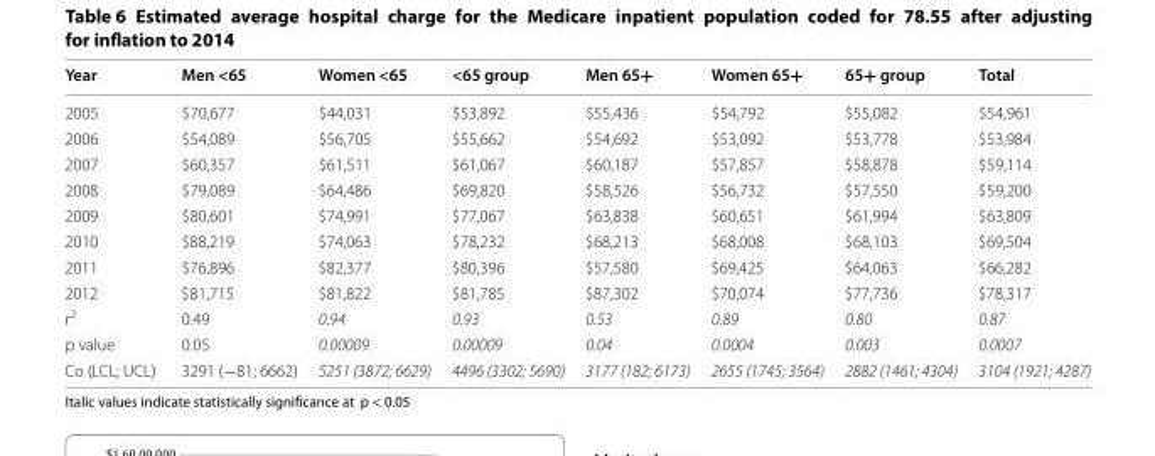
<table><thead><tr><td>Year</td><td>Men &lt;65</td><td>Women &lt;65</td><td>&lt;65 group</td><td>Men 65+</td><td>Women 65+</td><td>65+ group</td><td>Total</td></tr></thead><tbody><tr><td>2005</td><td>$70,677</td><td>$44,031</td><td>$53,892</td><td>$55,436</td><td>$54,792</td><td>$55,082</td><td>$54,961</td></tr><tr><td>2006</td><td>$54,089</td><td>$56,705</td><td>$55,662</td><td>$54,692</td><td>$53,092</td><td>$53,778</td><td>$53,984</td></tr><tr><td>2007</td><td>$60,357</td><td>$61,511</td><td>$61,067</td><td>$60,187</td><td>$57,857</td><td>$58,878</td><td>$59,114</td></tr><tr><td>2008</td><td>$79,089</td><td>$64,486</td><td>$69,820</td><td>$58,526</td><td>$56,732</td><td>$57,550</td><td>$59,200</td></tr><tr><td>2009</td><td>$80,601</td><td>$74,991</td><td>$77,067</td><td>$63,838</td><td>$60,651</td><td>$61,994</td><td>$63,809</td></tr><tr><td>2010</td><td>$88,219</td><td>$74,063</td><td>$78,232</td><td>$68,213</td><td>$68,008</td><td>$68,103</td><td>$69,504</td></tr><tr><td>2011</td><td>$76,896</td><td>$82,377</td><td>$80,396</td><td>$57,580</td><td>$69,425</td><td>$64,063</td><td>$66,282</td></tr><tr><td>2012</td><td>$81,715</td><td>$81,822</td><td>$81,785</td><td>$87,302</td><td>$70,074</td><td>$77,736</td><td>$78,317</td></tr><tr><td>r<sup>2</sup></td><td>0.49</td><td>0.94</td><td>0.93</td><td>0.53</td><td>0.89</td><td>0.80</td><td>0.87</td></tr><tr><td>p value</td><td>0.05</td><td>0.00009</td><td>0.00009</td><td>0.04</td><td>0.0004</td><td>0.003</td><td>0.0007</td></tr><tr><td>Co (LCL; UCL)</td><td>3291 (−81; 6662)</td><td>5251 (3872; 6629)</td><td>4496 (3302; 5690)</td><td>3177 (182; 6173)</td><td>2655 (1745; 3564)</td><td>2882 (1461; 4304)</td><td>3104 (1921; 4287)</td></tr></tbody></table>